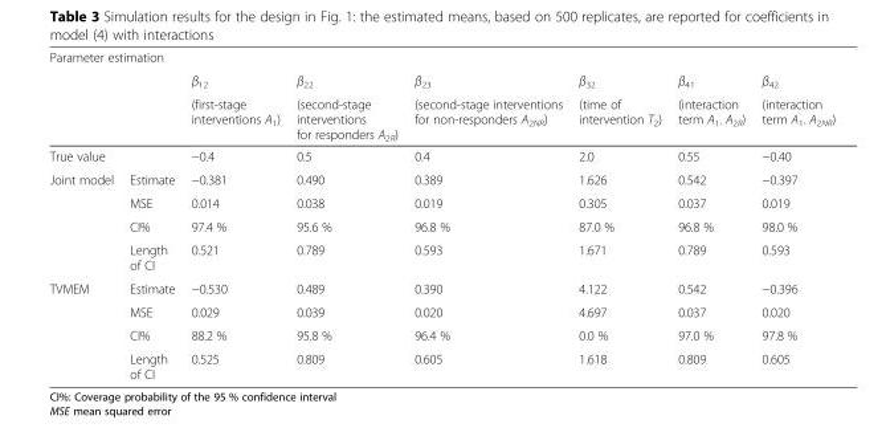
<table><tbody><tr><td colspan="8">Parameter estimation</td></tr><tr><td colspan="2"></td><td>β<sub>12</sub></td><td>β<sub>22</sub></td><td>β<sub>23</sub></td><td>β<sub>32</sub></td><td>β<sub>41</sub></td><td>β<sub>42</sub></td></tr><tr><td colspan="2"></td><td>(first-stage interventions A<sub>1</sub>)</td><td>(second-stage interventions for responders A<sub>2R</sub>)</td><td>(second-stage interventions for non-responders A<sub>2NR</sub>)</td><td>(time of intervention T<sub>2</sub>)</td><td>(interaction term A<sub>1</sub>. A<sub>2R</sub>)</td><td>(interaction term A<sub>1</sub>. A<sub>2NR</sub>)</td></tr><tr><td colspan="2">True value</td><td>−0.4</td><td>0.5</td><td>0.4</td><td>2.0</td><td>0.55</td><td>−0.40</td></tr><tr><td rowspan="4">Joint model</td><td>Estimate</td><td>−0.381</td><td>0.490</td><td>0.389</td><td>1.626</td><td>0.542</td><td>−0.397</td></tr><tr><td>MSE</td><td>0.014</td><td>0.038</td><td>0.019</td><td>0.305</td><td>0.037</td><td>0.019</td></tr><tr><td>CI%</td><td>97.4 %</td><td>95.6 %</td><td>96.8 %</td><td>87.0 %</td><td>96.8 %</td><td>98.0 %</td></tr><tr><td>Length of CI</td><td>0.521</td><td>0.789</td><td>0.593</td><td>1.671</td><td>0.789</td><td>0.593</td></tr><tr><td rowspan="4">TVMEM</td><td>Estimate</td><td>−0.530</td><td>0.489</td><td>0.390</td><td>4.122</td><td>0.542</td><td>−0.396</td></tr><tr><td>MSE</td><td>0.029</td><td>0.039</td><td>0.020</td><td>4.697</td><td>0.037</td><td>0.020</td></tr><tr><td>CI%</td><td>88.2 %</td><td>95.8 %</td><td>96.4 %</td><td>0.0 %</td><td>97.0 %</td><td>97.8 %</td></tr><tr><td>Length of CI</td><td>0.525</td><td>0.809</td><td>0.605</td><td>1.618</td><td>0.809</td><td>0.605</td></tr></tbody></table>